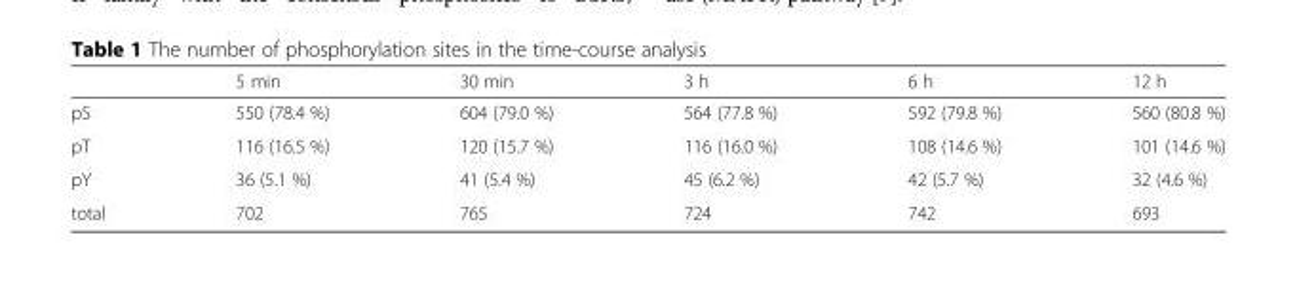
<table><thead><tr><td></td><td>5 min</td><td>30 min</td><td>3 h</td><td>6 h</td><td>12 h</td></tr></thead><tbody><tr><td>pS</td><td>550 (78.4 %)</td><td>604 (79.0 %)</td><td>564 (77.8 %)</td><td>592 (79.8 %)</td><td>560 (80.8 %)</td></tr><tr><td>pT</td><td>116 (16.5 %)</td><td>120 (15.7 %)</td><td>116 (16.0 %)</td><td>108 (14.6 %)</td><td>101 (14.6 %)</td></tr><tr><td>pY</td><td>36 (5.1 %)</td><td>41 (5.4 %)</td><td>45 (6.2 %)</td><td>42 (5.7 %)</td><td>32 (4.6 %)</td></tr><tr><td>total</td><td>702</td><td>765</td><td>724</td><td>742</td><td>693</td></tr></tbody></table>